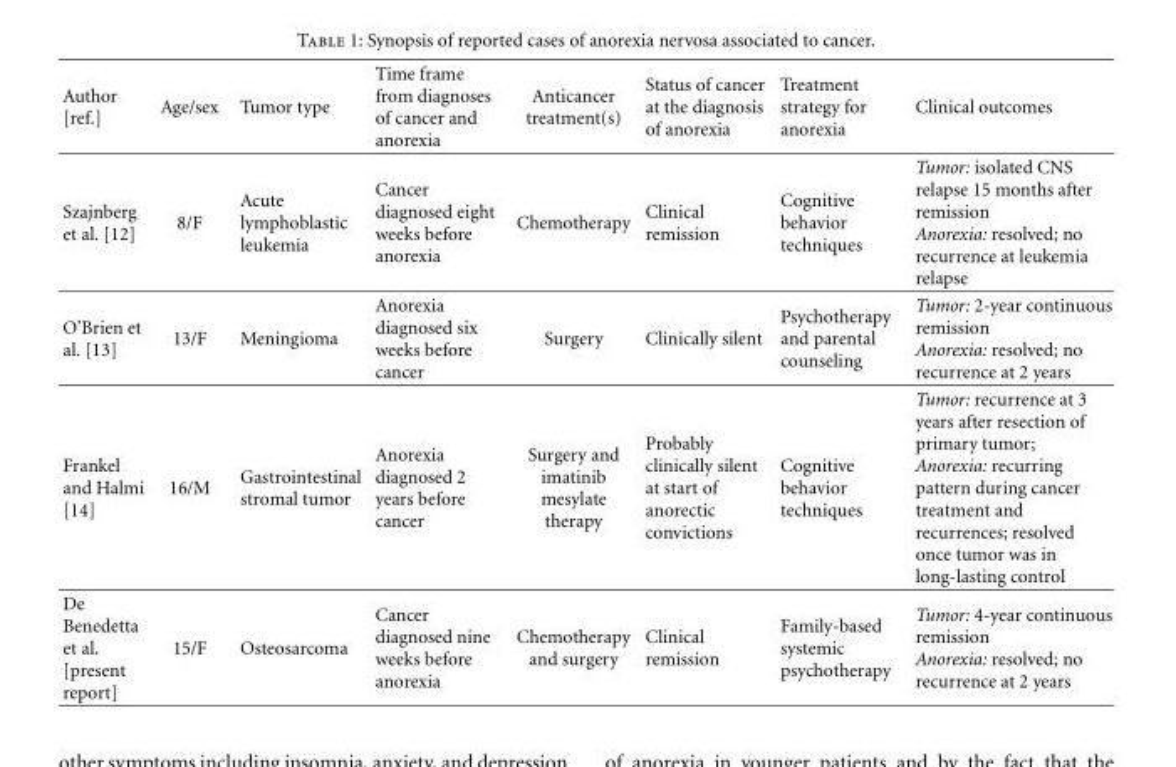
<table><thead><tr><td>Author [ref.]</td><td>Age/sex</td><td>Tumor type</td><td>Time frame from diagnoses of cancer and anorexia</td><td>Anticancer treatment(s)</td><td>Status of cancer at the diagnosis of anorexia</td><td>Treatment strategy for anorexia</td><td>Clinical outcomes</td></tr></thead><tbody><tr><td>Szajnberg et al. [12]</td><td>8/F</td><td>Acute lymphoblastic leukemia</td><td>Cancer diagnosed eight weeks before anorexia</td><td>Chemotherapy</td><td>Clinical remission</td><td>Cognitive behavior techniques</td><td>Tumor: isolated CNS relapse 15 months after remission Anorexia: resolved; no recurrence at leukemia relapse</td></tr><tr><td>O’Brien et al. [13]</td><td>13/F</td><td>Meningioma</td><td>Anorexia diagnosed six weeks before cancer</td><td>Surgery</td><td>Clinically silent</td><td>Psychotherapy and parental counseling</td><td>Tumor: 2-year continuous remission Anorexia: resolved; no recurrence at 2 years</td></tr><tr><td>Frankel and Halmi [14]</td><td>16/M</td><td>Gastrointestinal stromal tumor</td><td>Anorexia diagnosed 2 years before cancer</td><td>Surgery and imatinib mesylate therapy</td><td>Probably clinically silent at start of anorectic convictions</td><td>Cognitive behavior techniques</td><td>Tumor: recurrence at 3 years after resection of primary tumor; Anorexia: recurring pattern during cancer treatment and recurrences; resolved once tumor was in long-lasting control</td></tr><tr><td>De Benedetta et al. [present report]</td><td>15/F</td><td>Osteosarcoma</td><td>Cancer diagnosed nine weeks before anorexia</td><td>Chemotherapy and surgery</td><td>Clinical remission</td><td>Family-based systemic psychotherapy</td><td>Tumor: 4-year continuous remission Anorexia: resolved; no recurrence at 2 years</td></tr></tbody></table>